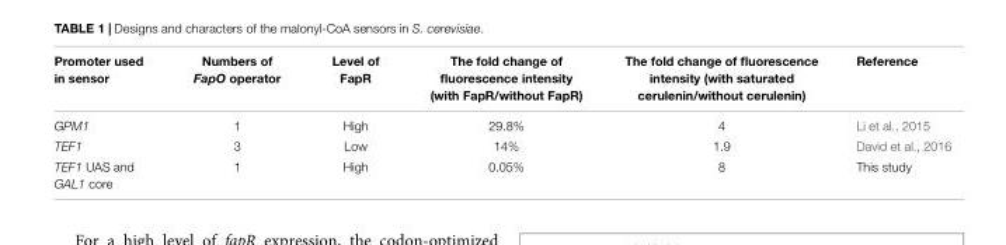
<table><thead><tr><td>Promoter used in sensor</td><td>Numbers of FapO operator</td><td>Level of FapR</td><td>The fold change of fluorescence intensity (with FapR/without FapR)</td><td>The fold change of fluorescence intensity (with saturated cerulenin/without cerulenin)</td><td>Reference</td></tr></thead><tbody><tr><td>GPM1</td><td>1</td><td>High</td><td>29.8%</td><td>4</td><td>Li et al., 2015</td></tr><tr><td>TEF1</td><td>3</td><td>Low</td><td>14%</td><td>1.9</td><td>David et al., 2016</td></tr><tr><td>TEF1 UAS and GAL1 core</td><td>1</td><td>High</td><td>0.05%</td><td>8</td><td>This study</td></tr></tbody></table>